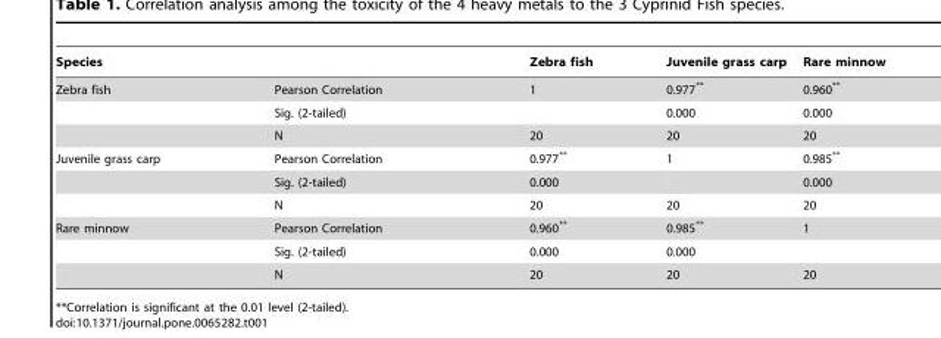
<table><thead><tr><td>Species</td><td></td><td>Zebra fish</td><td>Juvenile grass carp</td><td>Rare minnow</td></tr></thead><tbody><tr><td rowspan="3">Zebra fish</td><td>Pearson Correlation</td><td>1</td><td>0.977**</td><td>0.960**</td></tr><tr><td>Sig. (2-tailed)</td><td></td><td>0.000</td><td>0.000</td></tr><tr><td>N</td><td>20</td><td>20</td><td>20</td></tr><tr><td rowspan="3">Juvenile grass carp</td><td>Pearson Correlation</td><td>0.977**</td><td>1</td><td>0.985**</td></tr><tr><td>Sig. (2-tailed)</td><td>0.000</td><td></td><td>0.000</td></tr><tr><td>N</td><td>20</td><td>20</td><td>20</td></tr><tr><td rowspan="3">Rare minnow</td><td>Pearson Correlation</td><td>0.960**</td><td>0.985**</td><td>1</td></tr><tr><td>Sig. (2-tailed)</td><td>0.000</td><td>0.000</td><td></td></tr><tr><td>N</td><td>20</td><td>20</td><td>20</td></tr></tbody></table>